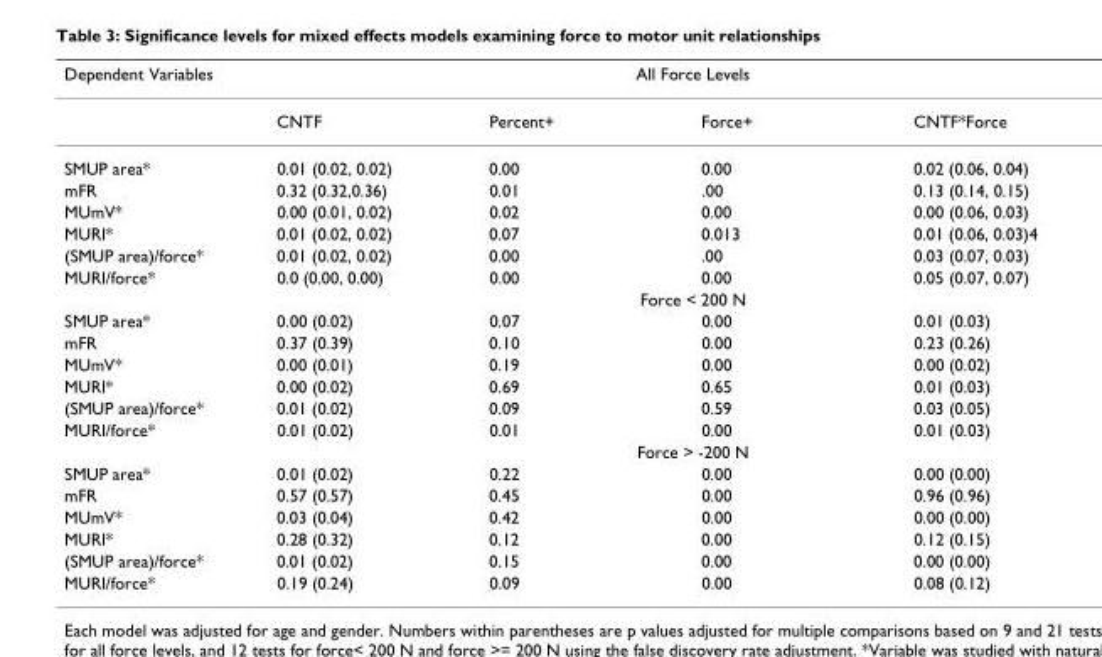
<table><thead><tr><td rowspan="2">Dependent Variables</td><td colspan="4">All Force Levels</td></tr><tr><td>CNTF</td><td>Percent+</td><td>Force+</td><td>CNTF*Force</td></tr></thead><tbody><tr><td>SMUP area*</td><td>0.01 (0.02, 0.02)</td><td>0.00</td><td>0.00</td><td>0.02 (0.06, 0.04)</td></tr><tr><td>mFR</td><td>0.32 (0.32,0.36)</td><td>0.01</td><td>.00</td><td>0.13 (0.14, 0.15)</td></tr><tr><td>MUmV*</td><td>0.00 (0.01, 0.02)</td><td>0.02</td><td>0.00</td><td>0.00 (0.06, 0.03)</td></tr><tr><td>MURI*</td><td>0.01 (0.02, 0.02)</td><td>0.07</td><td>0.013</td><td>0.01 (0.06, 0.03)4</td></tr><tr><td>(SMUP area)/force*</td><td>0.01 (0.02, 0.02)</td><td>0.00</td><td>.00</td><td>0.03 (0.07, 0.03)</td></tr><tr><td rowspan="2">MURI/force*</td><td>0.0 (0.00, 0.00)</td><td>0.00</td><td>0.00</td><td>0.05 (0.07, 0.07)</td></tr><tr><td colspan="4">Force &lt; 200 N</td></tr><tr><td>SMUP area*</td><td>0.00 (0.02)</td><td>0.07</td><td>0.00</td><td>0.01 (0.03)</td></tr><tr><td>mFR</td><td>0.37 (0.39)</td><td>0.10</td><td>0.00</td><td>0.23 (0.26)</td></tr><tr><td>MUmV*</td><td>0.00 (0.01)</td><td>0.19</td><td>0.00</td><td>0.00 (0.02)</td></tr><tr><td>MURI*</td><td>0.00 (0.02)</td><td>0.69</td><td>0.65</td><td>0.01 (0.03)</td></tr><tr><td>(SMUP area)/force*</td><td>0.01 (0.02)</td><td>0.09</td><td>0.59</td><td>0.03 (0.05)</td></tr><tr><td rowspan="2">MURI/force*</td><td>0.01 (0.02)</td><td>0.01</td><td>0.00</td><td>0.01 (0.03)</td></tr><tr><td colspan="4">Force &gt; -200 N</td></tr><tr><td>SMUP area*</td><td>0.01 (0.02)</td><td>0.22</td><td>0.00</td><td>0.00 (0.00)</td></tr><tr><td>mFR</td><td>0.57 (0.57)</td><td>0.45</td><td>0.00</td><td>0.96 (0.96)</td></tr><tr><td>MUmV*</td><td>0.03 (0.04)</td><td>0.42</td><td>0.00</td><td>0.00 (0.00)</td></tr><tr><td>MURI*</td><td>0.28 (0.32)</td><td>0.12</td><td>0.00</td><td>0.12 (0.15)</td></tr><tr><td>(SMUP area)/force*</td><td>0.01 (0.02)</td><td>0.15</td><td>0.00</td><td>0.00 (0.00)</td></tr><tr><td>MURI/force*</td><td>0.19 (0.24)</td><td>0.09</td><td>0.00</td><td>0.08 (0.12)</td></tr></tbody></table>